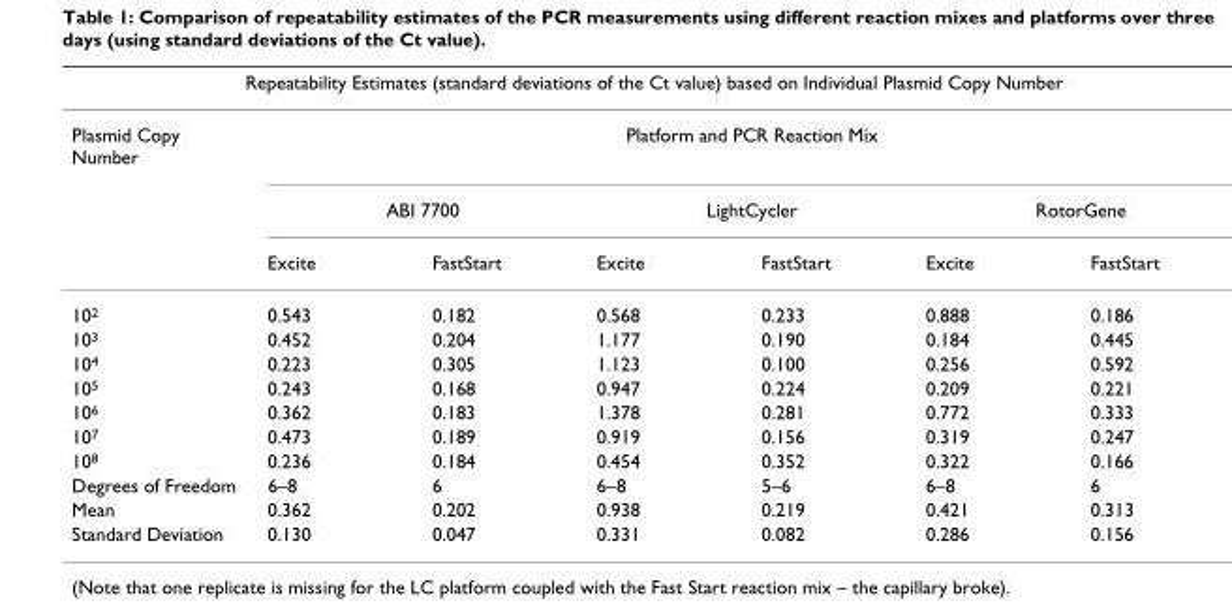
<table><thead><tr><td colspan="7">Repeatability Estimates (standard deviations of the Ct value) based on Individual Plasmid Copy Number</td></tr><tr><td rowspan="3">Plasmid Copy Number</td><td colspan="6">Platform and PCR Reaction Mix</td></tr><tr><td colspan="2">ABI 7700</td><td colspan="2">LightCycler</td><td colspan="2">RotorGene</td></tr><tr><td>Excite</td><td>FastStart</td><td>Excite</td><td>FastStart</td><td>Excite</td><td>FastStart</td></tr></thead><tbody><tr><td>102</td><td>0.543</td><td>0.182</td><td>0.568</td><td>0.233</td><td>0.888</td><td>0.186</td></tr><tr><td>103</td><td>0.452</td><td>0.204</td><td>1.177</td><td>0.190</td><td>0.184</td><td>0.445</td></tr><tr><td>104</td><td>0.223</td><td>0.305</td><td>1.123</td><td>0.100</td><td>0.256</td><td>0.592</td></tr><tr><td>105</td><td>0.243</td><td>0.168</td><td>0.947</td><td>0.224</td><td>0.209</td><td>0.221</td></tr><tr><td>106</td><td>0.362</td><td>0.183</td><td>1.378</td><td>0.281</td><td>0.772</td><td>0.333</td></tr><tr><td>107</td><td>0.473</td><td>0.189</td><td>0.919</td><td>0.156</td><td>0.319</td><td>0.247</td></tr><tr><td>108</td><td>0.236</td><td>0.184</td><td>0.454</td><td>0.352</td><td>0.322</td><td>0.166</td></tr><tr><td>Degrees of Freedom</td><td>6–8</td><td>6</td><td>6–8</td><td>5–6</td><td>6–8</td><td>6</td></tr><tr><td>Mean</td><td>0.362</td><td>0.202</td><td>0.938</td><td>0.219</td><td>0.421</td><td>0.313</td></tr><tr><td>Standard Deviation</td><td>0.130</td><td>0.047</td><td>0.331</td><td>0.082</td><td>0.286</td><td>0.156</td></tr></tbody></table>